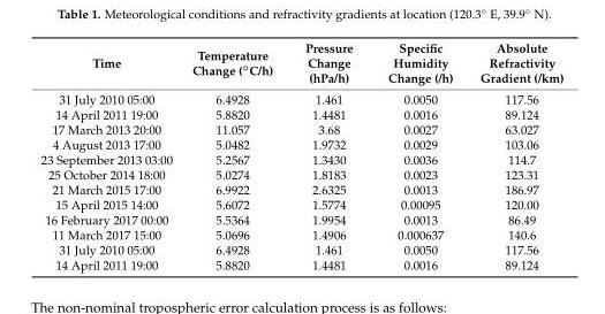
<table><thead><tr><td>Time</td><td>Temperature Change (◦C/h)</td><td>Pressure Change (hPa/h)</td><td>Specific Humidity Change (/h)</td><td>Absolute Refractivity Gradient (/km)</td></tr></thead><tbody><tr><td>31 July 2010 05:00</td><td>6.4928</td><td>1.461</td><td>0.0050</td><td>117.56</td></tr><tr><td>14 April 2011 19:00</td><td>5.8820</td><td>1.4481</td><td>0.0016</td><td>89.124</td></tr><tr><td>17 March 2013 20:00</td><td>11.057</td><td>3.68</td><td>0.0027</td><td>63.027</td></tr><tr><td>4 August 2013 17:00</td><td>5.0482</td><td>1.9732</td><td>0.0029</td><td>103.06</td></tr><tr><td>23 September 2013 03:00</td><td>5.2567</td><td>1.3430</td><td>0.0036</td><td>114.7</td></tr><tr><td>25 October 2014 18:00</td><td>5.0274</td><td>1.8183</td><td>0.0023</td><td>123.31</td></tr><tr><td>21 March 2015 17:00</td><td>6.9922</td><td>2.6325</td><td>0.0013</td><td>186.97</td></tr><tr><td>15 April 2015 14:00</td><td>5.6072</td><td>1.5774</td><td>0.00095</td><td>120.00</td></tr><tr><td>16 February 2017 00:00</td><td>5.5364</td><td>1.9954</td><td>0.0013</td><td>86.49</td></tr><tr><td>11 March 2017 15:00</td><td>5.0696</td><td>1.4906</td><td>0.000637</td><td>140.6</td></tr><tr><td>31 July 2010 05:00</td><td>6.4928</td><td>1.461</td><td>0.0050</td><td>117.56</td></tr><tr><td>14 April 2011 19:00</td><td>5.8820</td><td>1.4481</td><td>0.0016</td><td>89.124</td></tr></tbody></table>